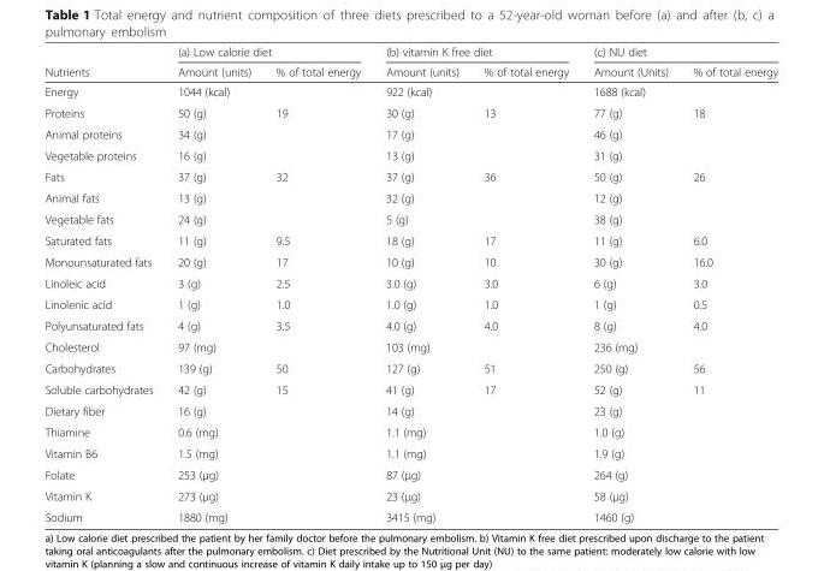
<table><thead><tr><td rowspan="2">Nutrients</td><td colspan="2">(a) Low calorie diet</td><td colspan="2">(b) vitamin K free diet</td><td colspan="2">(c) NU diet</td></tr><tr><td>Amount (units)</td><td>% of total energy</td><td>Amount (units)</td><td>% of total energy</td><td>Amount (Units)</td><td>% of total energy</td></tr></thead><tbody><tr><td>Energy</td><td>1044 (kcal)</td><td></td><td>922 (kcal)</td><td></td><td>1688 (kcal)</td><td></td></tr><tr><td>Proteins</td><td>50 (g)</td><td>19</td><td>30 (g)</td><td>13</td><td>77 (g)</td><td>18</td></tr><tr><td>Animal proteins</td><td>34 (g)</td><td></td><td>17 (g)</td><td></td><td>46 (g)</td><td></td></tr><tr><td>Vegetable proteins</td><td>16 (g)</td><td></td><td>13 (g)</td><td></td><td>31 (g)</td><td></td></tr><tr><td>Fats</td><td>37 (g)</td><td>32</td><td>37 (g)</td><td>36</td><td>50 (g)</td><td>26</td></tr><tr><td>Animal fats</td><td>13 (g)</td><td></td><td>32 (g)</td><td></td><td>12 (g)</td><td></td></tr><tr><td>Vegetable fats</td><td>24 (g)</td><td></td><td>5 (g)</td><td></td><td>38 (g)</td><td></td></tr><tr><td>Saturated fats</td><td>11 (g)</td><td>9.5</td><td>18 (g)</td><td>17</td><td>11 (g)</td><td>6.0</td></tr><tr><td>Monounsaturated fats</td><td>20 (g)</td><td>17</td><td>10 (g)</td><td>10</td><td>30 (g)</td><td>16.0</td></tr><tr><td>Linoleic acid</td><td>3 (g)</td><td>2.5</td><td>3.0 (g)</td><td>3.0</td><td>6 (g)</td><td>3.0</td></tr><tr><td>Linolenic acid</td><td>1 (g)</td><td>1.0</td><td>1.0 (g)</td><td>1.0</td><td>1 (g)</td><td>0.5</td></tr><tr><td>Polyunsaturated fats</td><td>4 (g)</td><td>3.5</td><td>4.0 (g)</td><td>4.0</td><td>8 (g)</td><td>4.0</td></tr><tr><td>Cholesterol</td><td>97 (mg)</td><td></td><td>103 (mg)</td><td></td><td>236 (mg)</td><td></td></tr><tr><td>Carbohydrates</td><td>139 (g)</td><td>50</td><td>127 (g)</td><td>51</td><td>250 (g)</td><td>56</td></tr><tr><td>Soluble carbohydrates</td><td>42 (g)</td><td>15</td><td>41 (g)</td><td>17</td><td>52 (g)</td><td>11</td></tr><tr><td>Dietary fiber</td><td>16 (g)</td><td></td><td>14 (g)</td><td></td><td>23 (g)</td><td></td></tr><tr><td>Thiamine</td><td>0.6 (mg)</td><td></td><td>1.1 (mg)</td><td></td><td>1.0 (g)</td><td></td></tr><tr><td>Vitamin B6</td><td>1.5 (mg)</td><td></td><td>1.1 (mg)</td><td></td><td>1.9 (g)</td><td></td></tr><tr><td>Folate</td><td>253 (μg)</td><td></td><td>87 (μg)</td><td></td><td>264 (g)</td><td></td></tr><tr><td>Vitamin K</td><td>273 (μg)</td><td></td><td>23 (μg)</td><td></td><td>58 (μg)</td><td></td></tr><tr><td>Sodium</td><td>1880 (mg)</td><td></td><td>3415 (mg)</td><td></td><td>1460 (g)</td><td></td></tr></tbody></table>